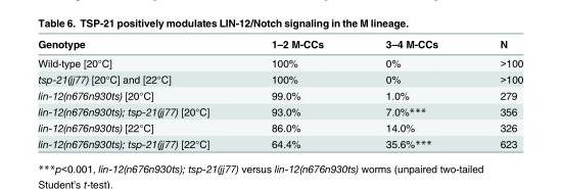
<table><thead><tr><td>Genotype</td><td>1–2 M-CCs</td><td>3–4 M-CCs</td><td>N</td></tr></thead><tbody><tr><td>Wild-type [20°C]</td><td>100%</td><td>0%</td><td>&gt;100</td></tr><tr><td>tsp-21(jj77) [20°C] and [22°C]</td><td>100%</td><td>0%</td><td>&gt;100</td></tr><tr><td>lin-12(n676n930ts) [20°C]</td><td>99.0%</td><td>1.0%</td><td>279</td></tr><tr><td>lin-12(n676n930ts); tsp-21(jj77) [20°C]</td><td>93.0%</td><td>7.0%***</td><td>356</td></tr><tr><td>lin-12(n676n930ts) [22°C]</td><td>86.0%</td><td>14.0%</td><td>326</td></tr><tr><td>lin-12(n676n930ts); tsp-21(jj77) [22°C]</td><td>64.4%</td><td>35.6%***</td><td>623</td></tr></tbody></table>